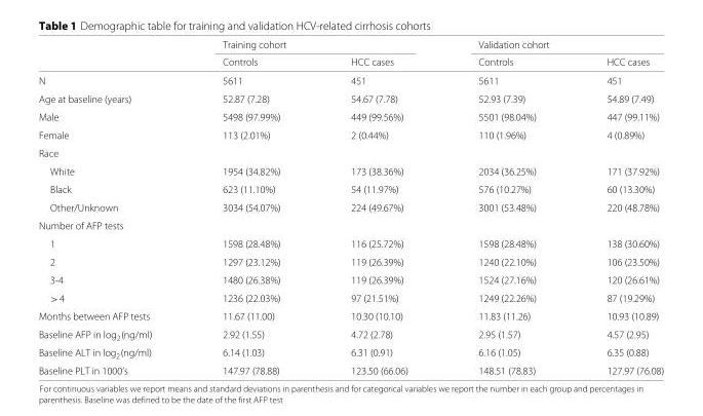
<table><thead><tr><td rowspan="2"></td><td colspan="2">Training cohort</td><td colspan="2">Validation cohort</td></tr><tr><td>Controls</td><td>HCC cases</td><td>Controls</td><td>HCC cases</td></tr></thead><tbody><tr><td>N</td><td>5611</td><td>451</td><td>5611</td><td>451</td></tr><tr><td>Age at baseline (years)</td><td>52.87 (7.28)</td><td>54.67 (7.78)</td><td>52.93 (7.39)</td><td>54.89 (7.49)</td></tr><tr><td>Male</td><td>5498 (97.99%)</td><td>449 (99.56%)</td><td>5501 (98.04%)</td><td>447 (99.11%)</td></tr><tr><td>Female</td><td>113 (2.01%)</td><td>2 (0.44%)</td><td>110 (1.96%)</td><td>4 (0.89%)</td></tr><tr><td colspan="5">Race</td></tr><tr><td>White</td><td>1954 (34.82%)</td><td>173 (38.36%)</td><td>2034 (36.25%)</td><td>171 (37.92%)</td></tr><tr><td>Black</td><td>623 (11.10%)</td><td>54 (11.97%)</td><td>576 (10.27%)</td><td>60 (13.30%)</td></tr><tr><td>Other/Unknown</td><td>3034 (54.07%)</td><td>224 (49.67%)</td><td>3001 (53.48%)</td><td>220 (48.78%)</td></tr><tr><td colspan="5">Number of AFP tests</td></tr><tr><td>1</td><td>1598 (28.48%)</td><td>116 (25.72%)</td><td>1598 (28.48%)</td><td>138 (30.60%)</td></tr><tr><td>2</td><td>1297 (23.12%)</td><td>119 (26.39%)</td><td>1240 (22.10%)</td><td>106 (23.50%)</td></tr><tr><td>3-4</td><td>1480 (26.38%)</td><td>119 (26.39%)</td><td>1524 (27.16%)</td><td>120 (26.61%)</td></tr><tr><td>&gt;4</td><td>1236 (22.03%)</td><td>97 (21.51%)</td><td>1249 (22.26%)</td><td>87 (19.29%)</td></tr><tr><td>Months between AFP tests</td><td>11.67 (11.00)</td><td>10.30 (10.10)</td><td>11.83 (11.26)</td><td>10.93 (10.89)</td></tr><tr><td>Baseline AFP in log2(ng/ml)</td><td>2.92 (1.55)</td><td>4.72 (2.78)</td><td>2.95 (1.57)</td><td>4.57 (2.95)</td></tr><tr><td>Baseline ALT in log2(ng/ml)</td><td>6.14 (1.03)</td><td>6.31 (0.91)</td><td>6.16 (1.05)</td><td>6.35 (0.88)</td></tr><tr><td>Baseline PLT in 1000’s</td><td>147.97 (78.88)</td><td>123.50 (66.06)</td><td>148.51 (78.83)</td><td>127.97 (76.08)</td></tr></tbody></table>